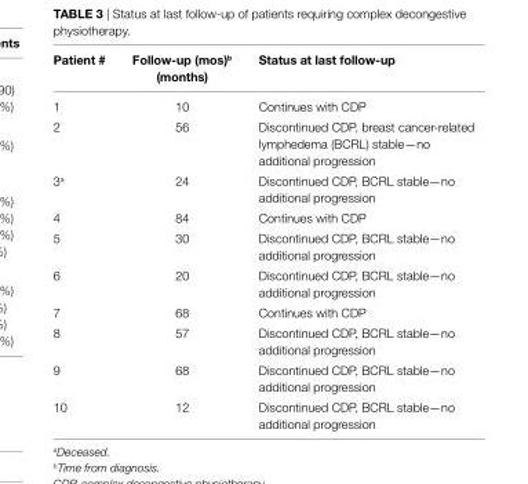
<table><thead><tr><td>Patient #</td><td>Follow-up (mos)<sup>b</sup> (months)</td><td>status at last follow-up</td></tr></thead><tbody><tr><td>1</td><td>10</td><td>Continues with CDP</td></tr><tr><td>2</td><td>56</td><td>Discontinued CDP, breast cancer-related lymphedema (BCRL) stable—no additional progression</td></tr><tr><td>3<sup>a</sup></td><td>24</td><td>Discontinued CDP, BCRL stable—no additional progression</td></tr><tr><td>4</td><td>84</td><td>Continues with CDP</td></tr><tr><td>5</td><td>30</td><td>Discontinued CDP, BCRL stable—no additional progression</td></tr><tr><td>6</td><td>20</td><td>Discontinued CDP, BCRL stable—no additional progression</td></tr><tr><td>7</td><td>68</td><td>Continues with CDP</td></tr><tr><td>8</td><td>57</td><td>Discontinued CDP, BCRL stable—no additional progression</td></tr><tr><td>9</td><td>68</td><td>Discontinued CDP, BCRL stable—no additional progression</td></tr><tr><td>10</td><td>12</td><td>Discontinued CDP, BCRL stable—no additional progression</td></tr></tbody></table>